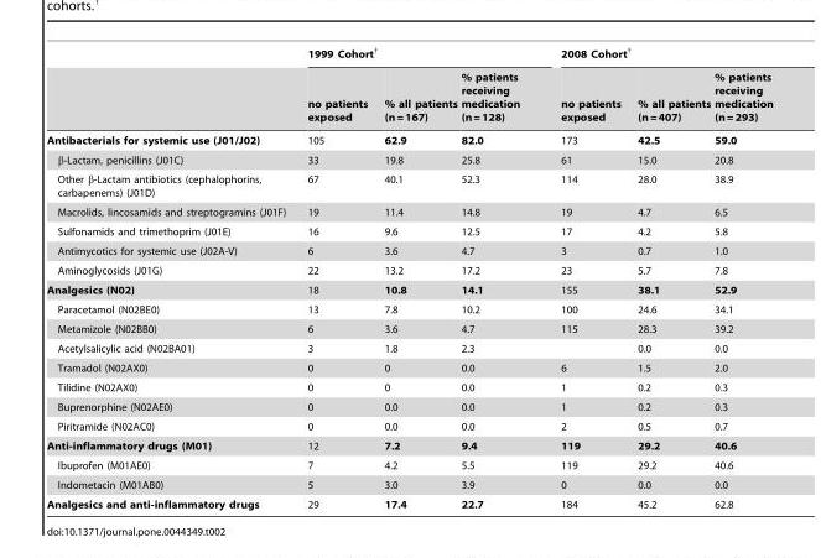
<table><thead><tr><td rowspan="2"></td><td colspan="3">1999 Cohort<sup>†</sup></td><td colspan="3">2008 Cohort<sup>†</sup></td></tr><tr><td>no patients exposed</td><td>% all patients (n = 167)</td><td>% patients receiving medication (n = 128)</td><td>no patients exposed</td><td>% all patients (n = 407)</td><td>% patients receiving medication (n = 293)</td></tr></thead><tbody><tr><td>Antibacterials for systemic use (J01/J02)</td><td>105</td><td>62.9</td><td>82.0</td><td>173</td><td>42.5</td><td>59.0</td></tr><tr><td>β-Lactam, penicillins (J01C)</td><td>33</td><td>19.8</td><td>25.8</td><td>61</td><td>15.0</td><td>20.8</td></tr><tr><td>Other β-Lactam antibiotics (cephalophorins, carbapenems) (J01D)</td><td>67</td><td>40.1</td><td>52.3</td><td>114</td><td>28.0</td><td>38.9</td></tr><tr><td>Macrolids, lincosamids and streptogramins (J01F)</td><td>19</td><td>11.4</td><td>14.8</td><td>19</td><td>4.7</td><td>6.5</td></tr><tr><td>Sulfonamids and trimethoprim (J01E)</td><td>16</td><td>9.6</td><td>12.5</td><td>17</td><td>4.2</td><td>5.8</td></tr><tr><td>Antimycotics for systemic use (J02A-V)</td><td>6</td><td>3.6</td><td>4.7</td><td>3</td><td>0.7</td><td>1.0</td></tr><tr><td>Aminoglycosids (J01G)</td><td>22</td><td>13.2</td><td>17.2</td><td>23</td><td>5.7</td><td>7.8</td></tr><tr><td>Analgesics (N02)</td><td>18</td><td>10.8</td><td>14.1</td><td>155</td><td>38.1</td><td>52.9</td></tr><tr><td>Paracetamol (N02BE0)</td><td>13</td><td>7.8</td><td>10.2</td><td>100</td><td>24.6</td><td>34.1</td></tr><tr><td>Metamizole (N02BB0)</td><td>6</td><td>3.6</td><td>4.7</td><td>115</td><td>28.3</td><td>39.2</td></tr><tr><td>Acetylsalicylic acid (N02BA01)</td><td>3</td><td>1.8</td><td>2.3</td><td></td><td>0.0</td><td>0.0</td></tr><tr><td>Tramadol (N02AX0)</td><td>0</td><td>0</td><td>0.0</td><td>6</td><td>1.5</td><td>2.0</td></tr><tr><td>Tilidine (N02AX0)</td><td>0</td><td>0</td><td>0.0</td><td>1</td><td>0.2</td><td>0.3</td></tr><tr><td>Buprenorphine (N02AE0)</td><td>0</td><td>0.0</td><td>0.0</td><td>1</td><td>0.2</td><td>0.3</td></tr><tr><td>Piritramide (N02AC0)</td><td>0</td><td>0.0</td><td>0.0</td><td>2</td><td>0.5</td><td>0.7</td></tr><tr><td>Anti-inflammatory drugs (M01)</td><td>12</td><td>7.2</td><td>9.4</td><td>119</td><td>29.2</td><td>40.6</td></tr><tr><td>Ibuprofen (M01AE0)</td><td>7</td><td>4.2</td><td>5.5</td><td>119</td><td>29.2</td><td>40.6</td></tr><tr><td>Indometacin (M01AB0)</td><td>5</td><td>3.0</td><td>3.9</td><td>0</td><td>0.0</td><td>0.0</td></tr><tr><td>Analgesics and anti-inflammatory drugs</td><td>29</td><td>17.4</td><td>22.7</td><td>184</td><td>45.2</td><td>62.8</td></tr></tbody></table>